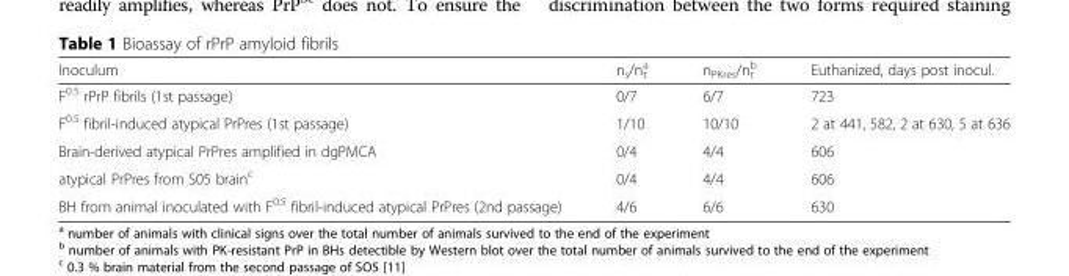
<table><thead><tr><td>Inoculum</td><td>n<sub>s</sub>/n<sub>t</sub> <sup>a</sup></td><td>n<sub>PKres</sub>/n<sub>t</sub> <sup>b</sup></td><td>Euthanized, days post inocul.</td></tr></thead><tbody><tr><td>F<sup>0.5</sup> rPrP fibrils (1st passage)</td><td>0/7</td><td>6/7</td><td>723</td></tr><tr><td>F<sup>0.5</sup> fibril-induced atypical PrPres (1st passage)</td><td>1/10</td><td>10/10</td><td>2 at 441, 582, 2 at 630, 5 at 636</td></tr><tr><td>Brain-derived atypical PrPres amplified in dgPMCA</td><td>0/4</td><td>4/4</td><td>606</td></tr><tr><td>atypical PrPres from S05 brain<sup>c</sup></td><td>0/4</td><td>4/4</td><td>606</td></tr><tr><td>BH from animal inoculated with F<sup>0.5</sup> fibril-induced atypical PrPres (2nd passage)</td><td>4/6</td><td>6/6</td><td>630</td></tr></tbody></table>